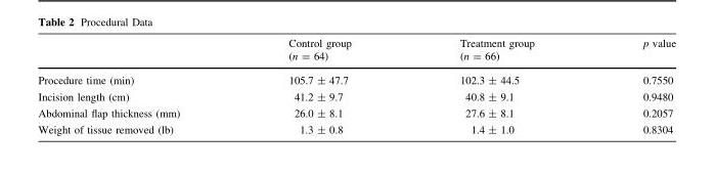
<table><thead><tr><td rowspan="2"></td><td rowspan="2">Control group (n = 64)</td><td rowspan="2">Treatment group (n = 66)</td><td rowspan="2">p value</td></tr><tr></tr></thead><tbody><tr><td>Procedure time (min)</td><td>105.7 ± 47.7</td><td>102.3 ± 44.5</td><td>0.7550</td></tr><tr><td>Incision length (cm)</td><td>41.2 ± 9.7</td><td>40.8 ± 9.1</td><td>0.9480</td></tr><tr><td>Abdominal flap thickness (mm)</td><td>26.0 ± 8.1</td><td>27.6 ± 8.1</td><td>0.2057</td></tr><tr><td>Weight of tissue removed (lb)</td><td>1.3 ± 0.8</td><td>1.4 ± 1.0</td><td>0.8304</td></tr></tbody></table>